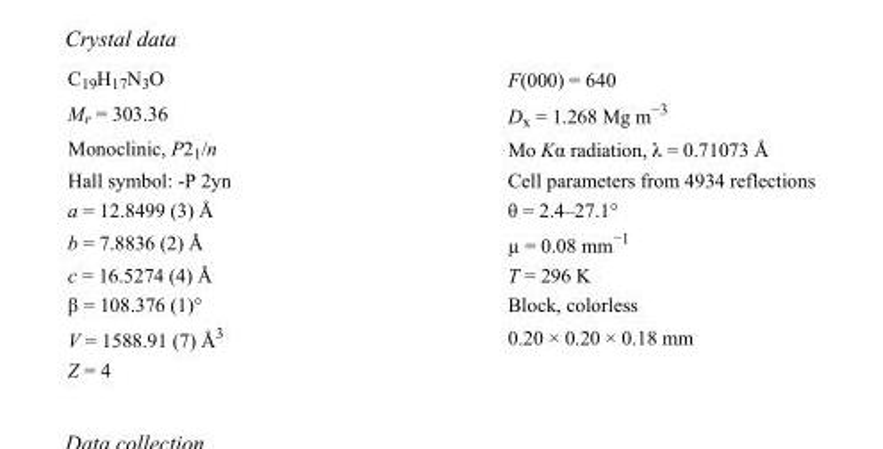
<table><tbody><tr><td>C<sub>19</sub>H<sub>17</sub>N<sub>3</sub>O</td><td>F(000) = 640</td></tr><tr><td>M<sub>r</sub> = 303.36</td><td>D<sub>x</sub> = 1.268 Mg m<sup>−3</sup></td></tr><tr><td>Monoclinic, P2<sub>1</sub>/n</td><td>Mo Kα radiation, λ = 0.71073 Å</td></tr><tr><td>Hall symbol: -P 2yn</td><td>Cell parameters from 4934 reflections</td></tr><tr><td>a = 12.8499 (3) Å</td><td>θ = 2.4–27.1°</td></tr><tr><td>b = 7.8836 (2) Å</td><td>µ = 0.08 mm<sup>−1</sup></td></tr><tr><td>c = 16.5274 (4) Å</td><td>T = 296 K</td></tr><tr><td>β = 108.376 (1)°</td><td>Block, colorless</td></tr><tr><td>V = 1588.91 (7) Å<sup>3</sup></td><td>0.20 × 0.20 × 0.18 mm</td></tr><tr><td>Z = 4</td><td></td></tr></tbody></table>